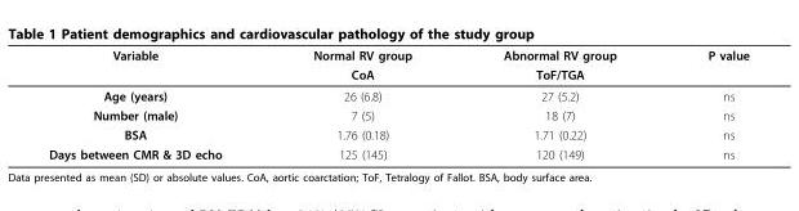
<table><thead><tr><td rowspan="2">Variable</td><td rowspan="2">Normal RV group CoA</td><td rowspan="2">Abnormal RV group ToF/TGA</td><td rowspan="2">P value</td></tr><tr></tr></thead><tbody><tr><td>Age (years)</td><td>26 (6.8)</td><td>27 (5.2)</td><td>ns</td></tr><tr><td>Number (male)</td><td>7 (5)</td><td>18 (7)</td><td>ns</td></tr><tr><td>BSA</td><td>1.76 (0.18)</td><td>1.71 (0.22)</td><td>ns</td></tr><tr><td>Days between CMR &amp; 3D echo</td><td>125 (145)</td><td>120 (149)</td><td>ns</td></tr></tbody></table>